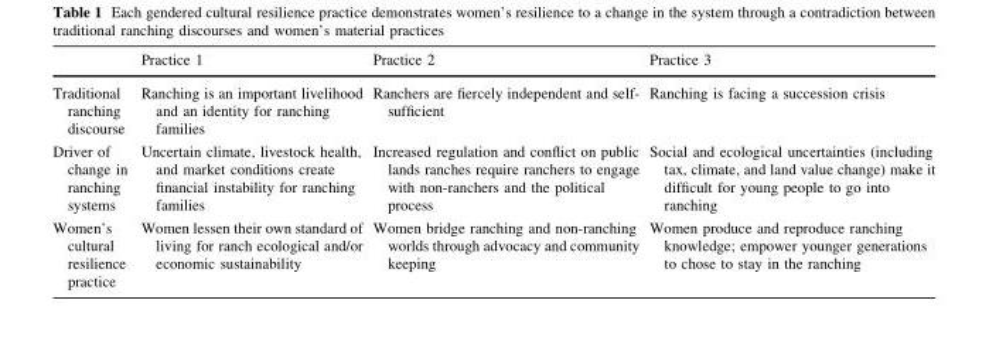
<table><thead><tr><td></td><td>Practice 1</td><td>Practice 2</td><td>Practice 3</td></tr></thead><tbody><tr><td>Traditional ranching discourse</td><td>Ranching is an important livelihood and an identity for ranching families</td><td>Ranchers are fiercely independent and self- sufficient</td><td>Ranching is facing a succession crisis</td></tr><tr><td>Driver of change in ranching systems</td><td>Uncertain climate, livestock health, and market conditions create financial instability for ranching families</td><td>Increased regulation and conflict on public lands ranches require ranchers to engage with non-ranchers and the political process</td><td>Social and ecological uncertainties (including tax, climate, and land value change) make it difficult for young people to go into ranching</td></tr><tr><td>Women’s cultural resilience practice</td><td>Women lessen their own standard of living for ranch ecological and/or economic sustainability</td><td>Women bridge ranching and non-ranching worlds through advocacy and community keeping</td><td>Women produce and reproduce ranching knowledge; empower younger generations to chose to stay in the ranching</td></tr></tbody></table>